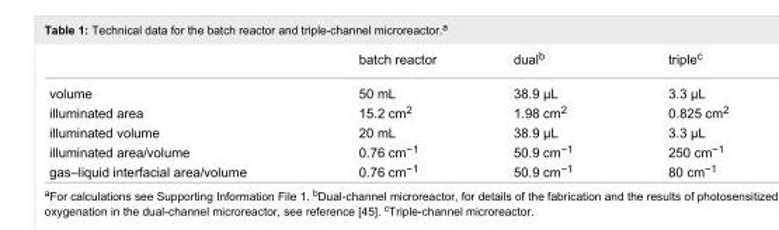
<table><thead><tr><td></td><td>batch reactor</td><td>dual<sup>b</sup></td><td>triple<sup>c</sup></td></tr></thead><tbody><tr><td>volume</td><td>50 mL</td><td>38.9 μL</td><td>3.3 μL</td></tr><tr><td>illuminated area</td><td>15.2 cm<sup>2</sup></td><td>1.98 cm<sup>2</sup></td><td>0.825 cm<sup>2</sup></td></tr><tr><td>illuminated volume</td><td>20 mL</td><td>38.9 μL</td><td>3.3 μL</td></tr><tr><td>illuminated area/volume</td><td>0.76 cm<sup>−1</sup></td><td>50.9 cm<sup>−1</sup></td><td>250 cm<sup>−1</sup></td></tr><tr><td>gas–liquid interfacial area/volume</td><td>0.76 cm<sup>−1</sup></td><td>50.9 cm<sup>−1</sup></td><td>80 cm<sup>−1</sup></td></tr></tbody></table>